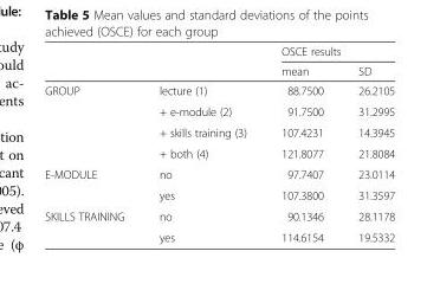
<table><thead><tr><td rowspan="2"></td><td rowspan="2"></td><td colspan="2">OSCE results</td></tr><tr><td>mean</td><td>SD</td></tr></thead><tbody><tr><td rowspan="4">GROUP</td><td>lecture (1)</td><td>88.7500</td><td>26.2105</td></tr><tr><td>+ e-module (2)</td><td>91.7500</td><td>31.2995</td></tr><tr><td>+ skills training (3)</td><td>107.4231</td><td>14.3945</td></tr><tr><td>+ both (4)</td><td>121.8077</td><td>21.8084</td></tr><tr><td rowspan="2">E-MODULE</td><td>no</td><td>97.7407</td><td>23.0114</td></tr><tr><td>yes</td><td>107.3800</td><td>31.3597</td></tr><tr><td rowspan="2">SKILLS TRAINING</td><td>no</td><td>90.1346</td><td>28.1178</td></tr><tr><td>yes</td><td>114.6154</td><td>19.5332</td></tr></tbody></table>